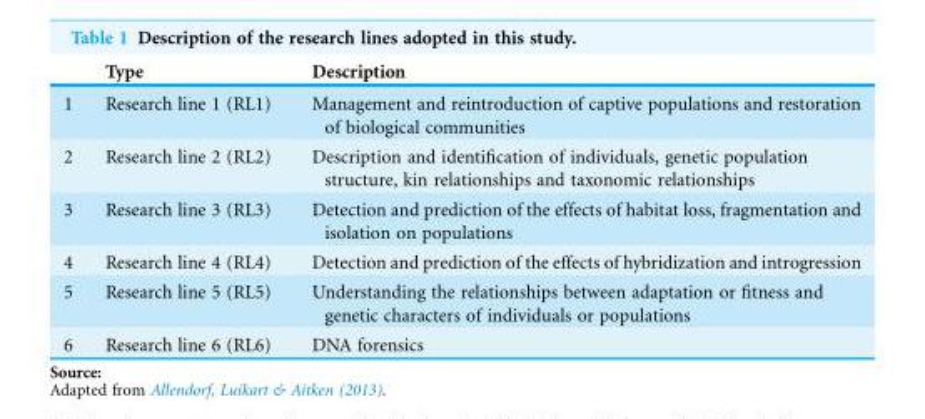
<table><thead><tr><td></td><td>Type</td><td>Description</td></tr></thead><tbody><tr><td>1</td><td>Research line 1 (RL1)</td><td>Management and reintroduction of captive populations and restoration of biological communities</td></tr><tr><td>2</td><td>Research line 2 (RL2)</td><td>Description and identification of individuals, genetic population structure, kin relationships and taxonomic relationships</td></tr><tr><td>3</td><td>Research line 3 (RL3)</td><td>Detection and prediction of the effects of habitat loss, fragmentation and isolation on populations</td></tr><tr><td>4</td><td>Research line 4 (RL4)</td><td>Detection and prediction of the effects of hybridization and introgression</td></tr><tr><td>5</td><td>Research line 5 (RL5)</td><td>Understanding the relationships between adaptation or fitness and genetic characters of individuals or populations</td></tr><tr><td>6</td><td>Research line 6 (RL6)</td><td>DNA forensics</td></tr></tbody></table>